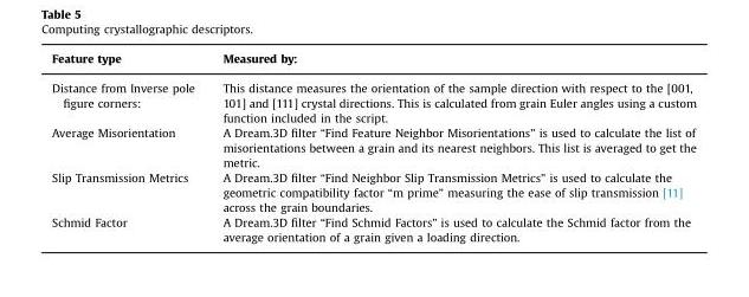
<table><thead><tr><td>Feature type</td><td>Measured by:</td></tr></thead><tbody><tr><td>Distance from Inverse pole figure corners:</td><td>This distance measures the orientation of the sample direction with respect to the [001, 101] and [111] crystal directions. This is calculated from grain Euler angles using a custom function included in the script.</td></tr><tr><td>Average Misorientation</td><td>A Dream.3D filter “Find Feature Neighbor Misorientations” is used to calculate the list of misorientations between a grain and its nearest neighbors. This list is averaged to get the metric.</td></tr><tr><td>Slip Transmission Metrics</td><td>A Dream.3D filter “Find Neighbor Slip Transmission Metrics” is used to calculate the geometric compatibility factor “m prime” measuring the ease of slip transmission [11] across the grain boundaries.</td></tr><tr><td>Schmid Factor</td><td>A Dream.3D filter “Find Schmid Factors” is used to calculate the Schmid factor from the average orientation of a grain given a loading direction.</td></tr></tbody></table>